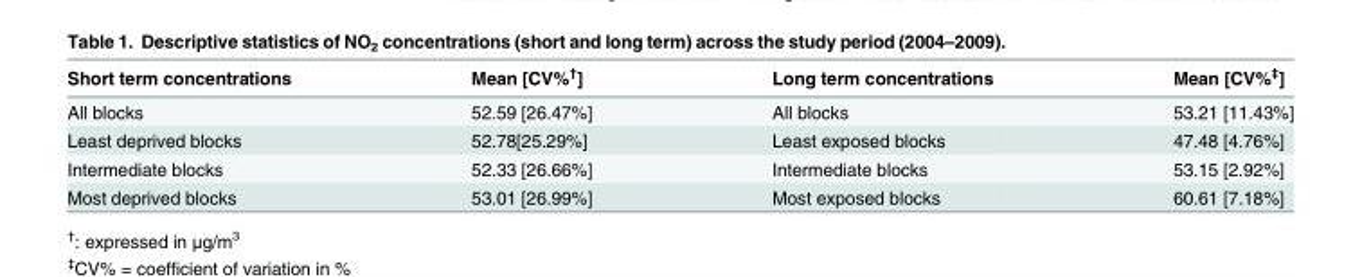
<table><thead><tr><td>Short term concentrations</td><td>Mean [CV%<sup>†</sup>]</td><td>Long term concentrations</td><td>Mean [CV%<sup>‡</sup>]</td></tr></thead><tbody><tr><td>All blocks</td><td>52.59 [26.47%]</td><td>All blocks</td><td>53.21 [11.43%]</td></tr><tr><td>Least deprived blocks</td><td>52.78[25.29%]</td><td>Least exposed blocks</td><td>47.48 [4.76%]</td></tr><tr><td>Intermediate blocks</td><td>52.33 [26.66%]</td><td>Intermediate blocks</td><td>53.15 [2.92%]</td></tr><tr><td>Most deprived blocks</td><td>53.01 [26.99%]</td><td>Most exposed blocks</td><td>60.61 [7.18%]</td></tr></tbody></table>